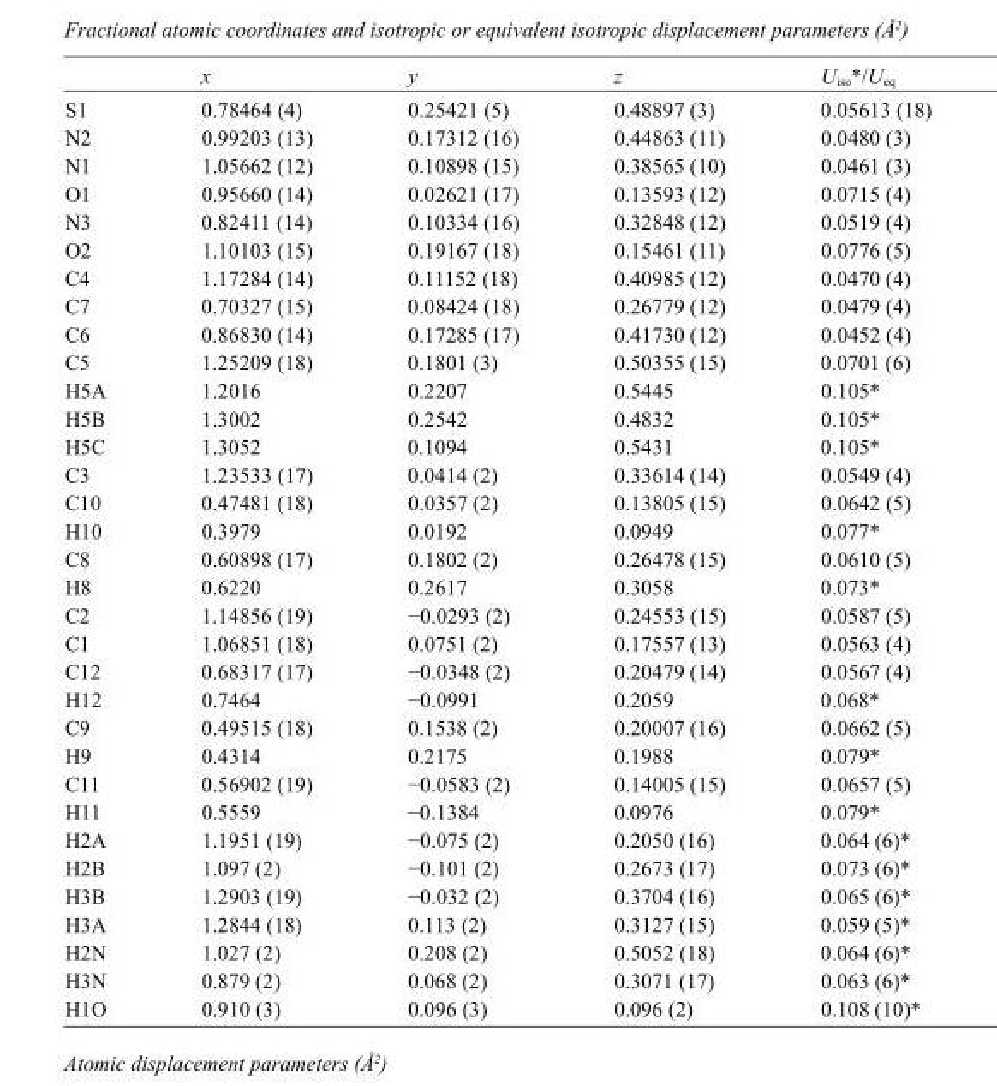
<table><thead><tr><td></td><td>x</td><td>y</td><td>z</td><td>U<sub>iso</sub>*/U<sub>eq</sub></td></tr></thead><tbody><tr><td>S1</td><td>0.78464 (4)</td><td>0.25421 (5)</td><td>0.48897 (3)</td><td>0.05613 (18)</td></tr><tr><td>N2</td><td>0.99203 (13)</td><td>0.17312 (16)</td><td>0.44863 (11)</td><td>0.0480 (3)</td></tr><tr><td>N1</td><td>1.05662 (12)</td><td>0.10898 (15)</td><td>0.38565 (10)</td><td>0.0461 (3)</td></tr><tr><td>O1</td><td>0.95660 (14)</td><td>0.02621 (17)</td><td>0.13593 (12)</td><td>0.0715 (4)</td></tr><tr><td>N3</td><td>0.82411 (14)</td><td>0.10334 (16)</td><td>0.32848 (12)</td><td>0.0519 (4)</td></tr><tr><td>O2</td><td>1.10103 (15)</td><td>0.19167 (18)</td><td>0.15461 (11)</td><td>0.0776 (5)</td></tr><tr><td>C4</td><td>1.17284 (14)</td><td>0.11152 (18)</td><td>0.40985 (12)</td><td>0.0470 (4)</td></tr><tr><td>C7</td><td>0.70327 (15)</td><td>0.08424 (18)</td><td>0.26779 (12)</td><td>0.0479 (4)</td></tr><tr><td>C6</td><td>0.86830 (14)</td><td>0.17285 (17)</td><td>0.41730 (12)</td><td>0.0452 (4)</td></tr><tr><td>C5</td><td>1.25209 (18)</td><td>0.1801 (3)</td><td>0.50355 (15)</td><td>0.0701 (6)</td></tr><tr><td>H5A</td><td>1.2016</td><td>0.2207</td><td>0.5445</td><td>0.105*</td></tr><tr><td>H5B</td><td>1.3002</td><td>0.2542</td><td>0.4832</td><td>0.105*</td></tr><tr><td>H5C</td><td>1.3052</td><td>0.1094</td><td>0.5431</td><td>0.105*</td></tr><tr><td>C3</td><td>1.23533 (17)</td><td>0.0414 (2)</td><td>0.33614 (14)</td><td>0.0549 (4)</td></tr><tr><td>C10</td><td>0.47481 (18)</td><td>0.0357 (2)</td><td>0.13805 (15)</td><td>0.0642 (5)</td></tr><tr><td>H10</td><td>0.3979</td><td>0.0192</td><td>0.0949</td><td>0.077*</td></tr><tr><td>C8</td><td>0.60898 (17)</td><td>0.1802 (2)</td><td>0.26478 (15)</td><td>0.0610 (5)</td></tr><tr><td>H8</td><td>0.6220</td><td>0.2617</td><td>0.3058</td><td>0.073*</td></tr><tr><td>C2</td><td>1.14856 (19)</td><td>−0.0293 (2)</td><td>0.24553 (15)</td><td>0.0587 (5)</td></tr><tr><td>C1</td><td>1.06851 (18)</td><td>0.0751 (2)</td><td>0.17557 (13)</td><td>0.0563 (4)</td></tr><tr><td>C12</td><td>0.68317 (17)</td><td>−0.0348 (2)</td><td>0.20479 (14)</td><td>0.0567 (4)</td></tr><tr><td>H12</td><td>0.7464</td><td>−0.0991</td><td>0.2059</td><td>0.068*</td></tr><tr><td>C9</td><td>0.49515 (18)</td><td>0.1538 (2)</td><td>0.20007 (16)</td><td>0.0662 (5)</td></tr><tr><td>H9</td><td>0.4314</td><td>0.2175</td><td>0.1988</td><td>0.079*</td></tr><tr><td>C11</td><td>0.56902 (19)</td><td>−0.0583 (2)</td><td>0.14005 (15)</td><td>0.0657 (5)</td></tr><tr><td>H11</td><td>0.5559</td><td>−0.1384</td><td>0.0976</td><td>0.079*</td></tr><tr><td>H2A</td><td>1.1951 (19)</td><td>−0.075 (2)</td><td>0.2050 (16)</td><td>0.064 (6)*</td></tr><tr><td>H2B</td><td>1.097 (2)</td><td>−0.101 (2)</td><td>0.2673 (17)</td><td>0.073 (6)*</td></tr><tr><td>H3B</td><td>1.2903 (19)</td><td>−0.032 (2)</td><td>0.3704 (16)</td><td>0.065 (6)*</td></tr><tr><td>H3A</td><td>1.2844 (18)</td><td>0.113 (2)</td><td>0.3127 (15)</td><td>0.059 (5)*</td></tr><tr><td>H2N</td><td>1.027 (2)</td><td>0.208 (2)</td><td>0.5052 (18)</td><td>0.064 (6)*</td></tr><tr><td>H3N</td><td>0.879 (2)</td><td>0.068 (2)</td><td>0.3071 (17)</td><td>0.063 (6)*</td></tr><tr><td>H1O</td><td>0.910 (3)</td><td>0.096 (3)</td><td>0.096 (2)</td><td>0.108 (10)*</td></tr></tbody></table>